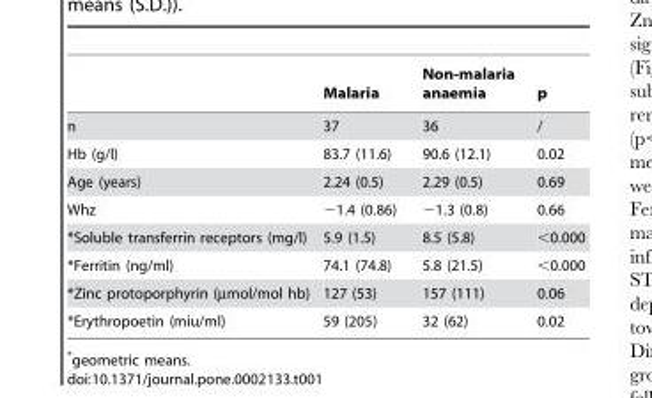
<table><thead><tr><td></td><td>Malaria</td><td>Non-malaria anaemia</td><td>p</td></tr></thead><tbody><tr><td>n</td><td>37</td><td>36</td><td>/</td></tr><tr><td>Hb (g/l)</td><td>83.7 (11.6)</td><td>90.6 (12.1)</td><td>0.02</td></tr><tr><td>Age (years)</td><td>2.24 (0.5)</td><td>2.29 (0.5)</td><td>0.69</td></tr><tr><td>Whz</td><td>−1.4 (0.86)</td><td>−1.3 (0.8)</td><td>0.66</td></tr><tr><td>*Soluble transferrin receptors (mg/l)</td><td>5.9 (1.5)</td><td>8.5 (5.8)</td><td>&lt;0.000</td></tr><tr><td>*Ferritin (ng/ml)</td><td>74.1 (74.8)</td><td>5.8 (21.5)</td><td>&lt;0.000</td></tr><tr><td>*Zinc protoporphyrin (µmol/mol hb)</td><td>127 (53)</td><td>157 (111)</td><td>0.06</td></tr><tr><td>*Erythropoetin (miu/ml)</td><td>59 (205)</td><td>32 (62)</td><td>0.02</td></tr></tbody></table>